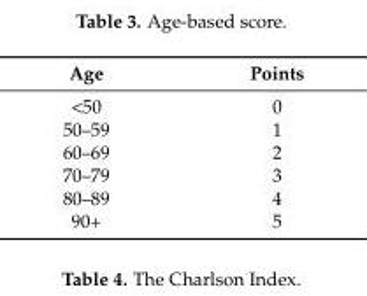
<table><thead><tr><td>Age</td><td>Points</td></tr></thead><tbody><tr><td>&lt;50</td><td>0</td></tr><tr><td>50–59</td><td>1</td></tr><tr><td>60–69</td><td>2</td></tr><tr><td>70–79</td><td>3</td></tr><tr><td>80–89</td><td>4</td></tr><tr><td>90+</td><td>5</td></tr></tbody></table>